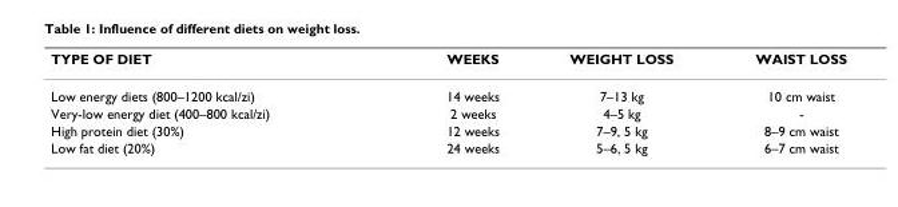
<table><thead><tr><td>TYPE OF DIET</td><td>WEEKS</td><td>WEIGHT LOSS</td><td>WAIST LOSS</td></tr></thead><tbody><tr><td>Low energy diets (800–1200 kcal/zi)</td><td>14 weeks</td><td>7–13 kg</td><td>10 cm waist</td></tr><tr><td>Very-low energy diet (400–800 kcal/zi)</td><td>2 weeks</td><td>4–5 kg</td><td>-</td></tr><tr><td>High protein diet (30%)</td><td>12 weeks</td><td>7–9, 5 kg</td><td>8–9 cm waist</td></tr><tr><td>Low fat diet (20%)</td><td>24 weeks</td><td>5–6, 5 kg</td><td>6–7 cm waist</td></tr></tbody></table>